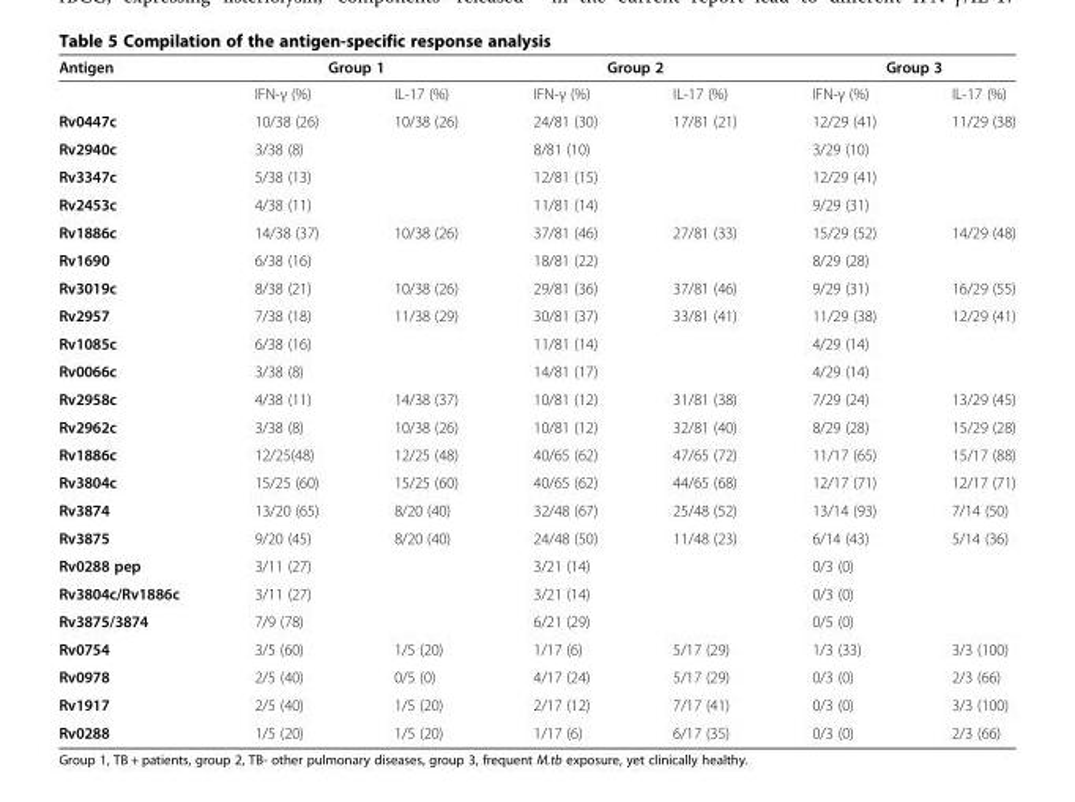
<table><thead><tr><td rowspan="2">Antigen</td><td colspan="2">Group 1</td><td colspan="2">Group 2</td><td colspan="2">Group 3</td></tr><tr><td>IFN-γ (%)</td><td>IL-17 (%)</td><td>IFN-γ (%)</td><td>IL-17 (%)</td><td>IFN-γ (%)</td><td>IL-17 (%)</td></tr></thead><tbody><tr><td>Rv0447c</td><td>10/38 (26)</td><td>10/38 (26)</td><td>24/81 (30)</td><td>17/81 (21)</td><td>12/29 (41)</td><td>11/29 (38)</td></tr><tr><td>Rv2940c</td><td>3/38 (8)</td><td></td><td>8/81 (10)</td><td></td><td>3/29 (10)</td><td></td></tr><tr><td>Rv3347c</td><td>5/38 (13)</td><td></td><td>12/81 (15)</td><td></td><td>12/29 (41)</td><td></td></tr><tr><td>Rv2453c</td><td>4/38 (11)</td><td></td><td>11/81 (14)</td><td></td><td>9/29 (31)</td><td></td></tr><tr><td>Rv1886c</td><td>14/38 (37)</td><td>10/38 (26)</td><td>37/81 (46)</td><td>27/81 (33)</td><td>15/29 (52)</td><td>14/29 (48)</td></tr><tr><td>Rv1690</td><td>6/38 (16)</td><td></td><td>18/81 (22)</td><td></td><td>8/29 (28)</td><td></td></tr><tr><td>Rv3019c</td><td>8/38 (21)</td><td>10/38 (26)</td><td>29/81 (36)</td><td>37/81 (46)</td><td>9/29 (31)</td><td>16/29 (55)</td></tr><tr><td>Rv2957</td><td>7/38 (18)</td><td>11/38 (29)</td><td>30/81 (37)</td><td>33/81 (41)</td><td>11/29 (38)</td><td>12/29 (41)</td></tr><tr><td>Rv1085c</td><td>6/38 (16)</td><td></td><td>11/81 (14)</td><td></td><td>4/29 (14)</td><td></td></tr><tr><td>Rv0066c</td><td>3/38 (8)</td><td></td><td>14/81 (17)</td><td></td><td>4/29 (14)</td><td></td></tr><tr><td>Rv2958c</td><td>4/38 (11)</td><td>14/38 (37)</td><td>10/81 (12)</td><td>31/81 (38)</td><td>7/29 (24)</td><td>13/29 (45)</td></tr><tr><td>Rv2962c</td><td>3/38 (8)</td><td>10/38 (26)</td><td>10/81 (12)</td><td>32/81 (40)</td><td>8/29 (28)</td><td>15/29 (28)</td></tr><tr><td>Rv1886c</td><td>12/25(48)</td><td>12/25 (48)</td><td>40/65 (62)</td><td>47/65 (72)</td><td>11/17 (65)</td><td>15/17 (88)</td></tr><tr><td>Rv3804c</td><td>15/25 (60)</td><td>15/25 (60)</td><td>40/65 (62)</td><td>44/65 (68)</td><td>12/17 (71)</td><td>12/17 (71)</td></tr><tr><td>Rv3874</td><td>13/20 (65)</td><td>8/20 (40)</td><td>32/48 (67)</td><td>25/48 (52)</td><td>13/14 (93)</td><td>7/14 (50)</td></tr><tr><td>Rv3875</td><td>9/20 (45)</td><td>8/20 (40)</td><td>24/48 (50)</td><td>11/48 (23)</td><td>6/14 (43)</td><td>5/14 (36)</td></tr><tr><td>Rv0288 pep</td><td>3/11 (27)</td><td></td><td>3/21 (14)</td><td></td><td>0/3 (0)</td><td></td></tr><tr><td>Rv3804c/Rv1886c</td><td>3/11 (27)</td><td></td><td>3/21 (14)</td><td></td><td>0/3 (0)</td><td></td></tr><tr><td>Rv3875/3874</td><td>7/9 (78)</td><td></td><td>6/21 (29)</td><td></td><td>0/5 (0)</td><td></td></tr><tr><td>Rv0754</td><td>3/5 (60)</td><td>1/5 (20)</td><td>1/17 (6)</td><td>5/17 (29)</td><td>1/3 (33)</td><td>3/3 (100)</td></tr><tr><td>Rv0978</td><td>2/5 (40)</td><td>0/5 (0)</td><td>4/17 (24)</td><td>5/17 (29)</td><td>0/3 (0)</td><td>2/3 (66)</td></tr><tr><td>Rv1917</td><td>2/5 (40)</td><td>1/5 (20)</td><td>2/17 (12)</td><td>7/17 (41)</td><td>0/3 (0)</td><td>3/3 (100)</td></tr><tr><td>Rv0288</td><td>1/5 (20)</td><td>1/5 (20)</td><td>1/17 (6)</td><td>6/17 (35)</td><td>0/3 (0)</td><td>2/3 (66)</td></tr></tbody></table>